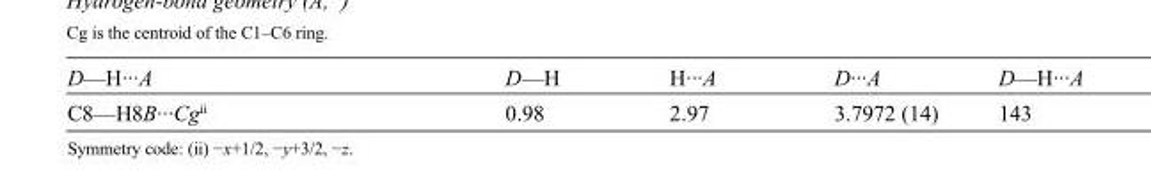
<table><tbody><tr><td>D—H···A</td><td>D—H</td><td>H···A</td><td>D···A</td><td>D—H···A</td></tr><tr><td>C8—H8B···Cg<sup>ii</sup></td><td>0.98</td><td>2.97</td><td>3.7972 (14)</td><td>143</td></tr></tbody></table>